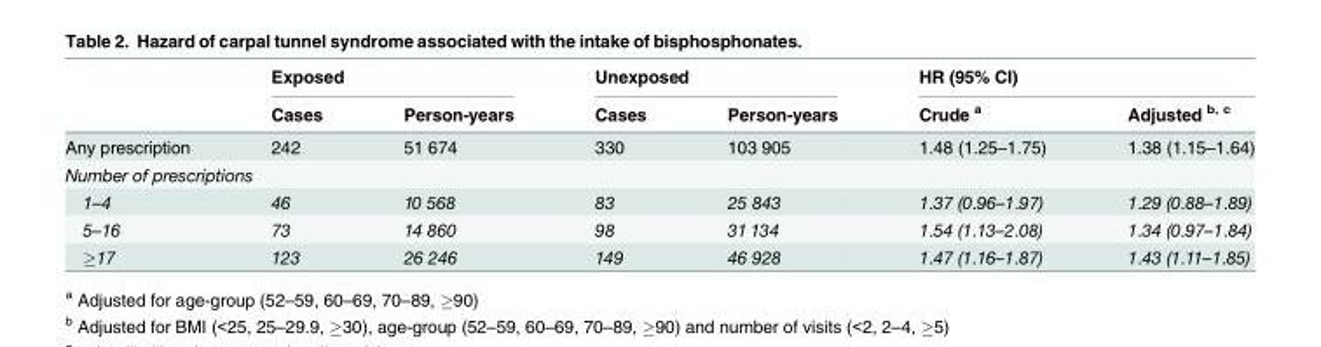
<table><thead><tr><td rowspan="2"></td><td colspan="2">Exposed</td><td colspan="2">Unexposed</td><td colspan="2">HR (95% CI)</td></tr><tr><td>Cases</td><td>Person-years</td><td>Cases</td><td>Person-years</td><td>Crude <sup>a</sup></td><td>Adjusted <sup>b, c</sup></td></tr></thead><tbody><tr><td>Any prescription</td><td>242</td><td>51 674</td><td>330</td><td>103 905</td><td>1.48 (1.25–1.75)</td><td>1.38 (1.15–1.64)</td></tr><tr><td colspan="7">Number of prescriptions</td></tr><tr><td>1–4</td><td>46</td><td>10 568</td><td>83</td><td>25 843</td><td>1.37 (0.96–1.97)</td><td>1.29 (0.88–1.89)</td></tr><tr><td>5–16</td><td>73</td><td>14 860</td><td>98</td><td>31 134</td><td>1.54 (1.13–2.08)</td><td>1.34 (0.97–1.84)</td></tr><tr><td>≥17</td><td>123</td><td>26 246</td><td>149</td><td>46 928</td><td>1.47 (1.16–1.87)</td><td>1.43 (1.11–1.85)</td></tr></tbody></table>